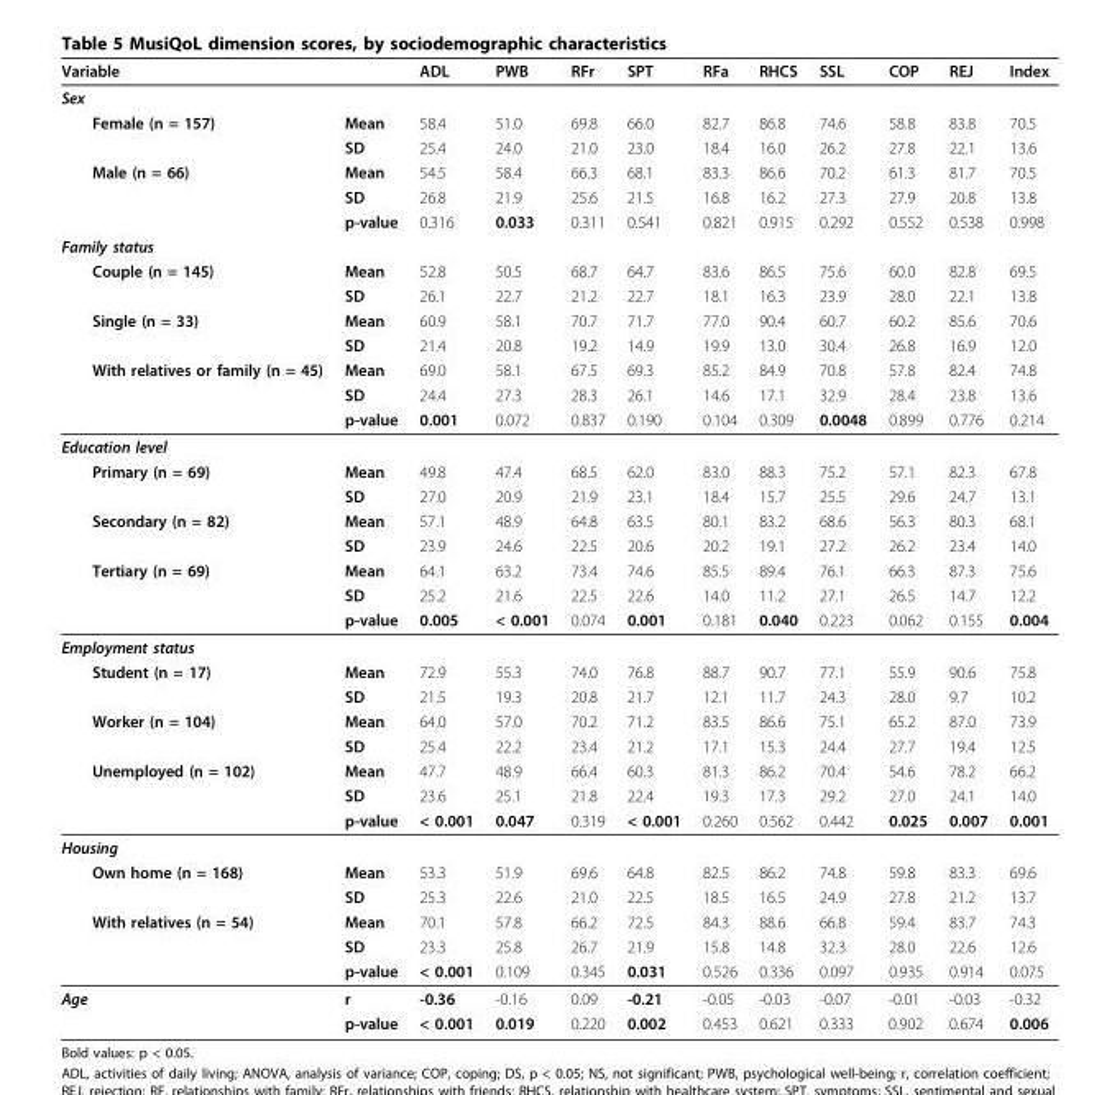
<table><thead><tr><td>Variable</td><td></td><td>ADL</td><td>PWB</td><td>RFr</td><td>SPT</td><td>RFa</td><td>RHCS</td><td>SSL</td><td>COP</td><td>REJ</td><td>Index</td></tr></thead><tbody><tr><td colspan="12">Sex</td></tr><tr><td rowspan="2">Female (n = 157)</td><td>Mean</td><td>58.4</td><td>51.0</td><td>69.8</td><td>66.0</td><td>82.7</td><td>86.8</td><td>74.6</td><td>58.8</td><td>83.8</td><td>70.5</td></tr><tr><td>SD</td><td>25.4</td><td>24.0</td><td>21.0</td><td>23.0</td><td>18.4</td><td>16.0</td><td>26.2</td><td>27.8</td><td>22.1</td><td>13.6</td></tr><tr><td rowspan="3">Male (n = 66)</td><td>Mean</td><td>54.5</td><td>58.4</td><td>66.3</td><td>68.1</td><td>83.3</td><td>86.6</td><td>70.2</td><td>61.3</td><td>81.7</td><td>70.5</td></tr><tr><td>SD</td><td>26.8</td><td>21.9</td><td>25.6</td><td>21.5</td><td>16.8</td><td>16.2</td><td>27.3</td><td>27.9</td><td>20.8</td><td>13.8</td></tr><tr><td>p-value</td><td>0.316</td><td>0.033</td><td>0.311</td><td>0.541</td><td>0.821</td><td>0.915</td><td>0.292</td><td>0.552</td><td>0.538</td><td>0.998</td></tr><tr><td colspan="12">Family status</td></tr><tr><td rowspan="2">Couple (n = 145)</td><td>Mean</td><td>52.8</td><td>50.5</td><td>68.7</td><td>64.7</td><td>83.6</td><td>86.5</td><td>75.6</td><td>60.0</td><td>82.8</td><td>69.5</td></tr><tr><td>SD</td><td>26.1</td><td>22.7</td><td>21.2</td><td>22.7</td><td>18.1</td><td>16.3</td><td>23.9</td><td>28.0</td><td>22.1</td><td>13.8</td></tr><tr><td rowspan="2">Single (n = 33)</td><td>Mean</td><td>60.9</td><td>58.1</td><td>70.7</td><td>71.7</td><td>77.0</td><td>90.4</td><td>60.7</td><td>60.2</td><td>85.6</td><td>70.6</td></tr><tr><td>SD</td><td>21.4</td><td>20.8</td><td>19.2</td><td>14.9</td><td>19.9</td><td>13.0</td><td>30.4</td><td>26.8</td><td>16.9</td><td>12.0</td></tr><tr><td rowspan="3">With relatives or family (n = 45)</td><td>Mean</td><td>69.0</td><td>58.1</td><td>67.5</td><td>69.3</td><td>85.2</td><td>84.9</td><td>70.8</td><td>57.8</td><td>82.4</td><td>74.8</td></tr><tr><td>SD</td><td>24.4</td><td>27.3</td><td>28.3</td><td>26.1</td><td>14.6</td><td>17.1</td><td>32.9</td><td>28.4</td><td>23.8</td><td>13.6</td></tr><tr><td>p-value</td><td>0.001</td><td>0.072</td><td>0.837</td><td>0.190</td><td>0.104</td><td>0.309</td><td>0.0048</td><td>0.899</td><td>0.776</td><td>0.214</td></tr><tr><td colspan="12">Education level</td></tr><tr><td rowspan="2">Primary (n = 69)</td><td>Mean</td><td>49.8</td><td>47.4</td><td>68.5</td><td>62.0</td><td>83.0</td><td>88.3</td><td>75.2</td><td>57.1</td><td>82.3</td><td>67.8</td></tr><tr><td>SD</td><td>27.0</td><td>20.9</td><td>21.9</td><td>23.1</td><td>18.4</td><td>15.7</td><td>25.5</td><td>29.6</td><td>24.7</td><td>13.1</td></tr><tr><td rowspan="2">Secondary (n = 82)</td><td>Mean</td><td>57.1</td><td>48.9</td><td>64.8</td><td>63.5</td><td>80.1</td><td>83.2</td><td>68.6</td><td>56.3</td><td>80.3</td><td>68.1</td></tr><tr><td>SD</td><td>23.9</td><td>24.6</td><td>22.5</td><td>20.6</td><td>20.2</td><td>19.1</td><td>27.2</td><td>26.2</td><td>23.4</td><td>14.0</td></tr><tr><td rowspan="3">Tertiary (n = 69)</td><td>Mean</td><td>64.1</td><td>63.2</td><td>73.4</td><td>74.6</td><td>85.5</td><td>89.4</td><td>76.1</td><td>66.3</td><td>87.3</td><td>75.6</td></tr><tr><td>SD</td><td>25.2</td><td>21.6</td><td>22.5</td><td>22.6</td><td>14.0</td><td>11.2</td><td>27.1</td><td>26.5</td><td>14.7</td><td>12.2</td></tr><tr><td>p-value</td><td>0.005</td><td>&lt; 0.001</td><td>0.074</td><td>0.001</td><td>0.181</td><td>0.040</td><td>0.223</td><td>0.062</td><td>0.155</td><td>0.004</td></tr><tr><td colspan="12">Employment status</td></tr><tr><td rowspan="2">Student (n = 17)</td><td>Mean</td><td>72.9</td><td>55.3</td><td>74.0</td><td>76.8</td><td>88.7</td><td>90.7</td><td>77.1</td><td>55.9</td><td>90.6</td><td>75.8</td></tr><tr><td>SD</td><td>21.5</td><td>19.3</td><td>20.8</td><td>21.7</td><td>12.1</td><td>11.7</td><td>24.3</td><td>28.0</td><td>9.7</td><td>10.2</td></tr><tr><td rowspan="2">Worker (n = 104)</td><td>Mean</td><td>64.0</td><td>57.0</td><td>70.2</td><td>71.2</td><td>83.5</td><td>86.6</td><td>75.1</td><td>65.2</td><td>87.0</td><td>73.9</td></tr><tr><td>SD</td><td>25.4</td><td>22.2</td><td>23.4</td><td>21.2</td><td>17.1</td><td>15.3</td><td>24.4</td><td>27.7</td><td>19.4</td><td>12.5</td></tr><tr><td rowspan="3">Unemployed (n = 102)</td><td>Mean</td><td>47.7</td><td>48.9</td><td>66.4</td><td>60.3</td><td>81.3</td><td>86.2</td><td>70.4</td><td>54.6</td><td>78.2</td><td>66.2</td></tr><tr><td>SD</td><td>23.6</td><td>25.1</td><td>21.8</td><td>22.4</td><td>19.3</td><td>17.3</td><td>29.2</td><td>27.0</td><td>24.1</td><td>14.0</td></tr><tr><td>p-value</td><td>&lt; 0.001</td><td>0.047</td><td>0.319</td><td>&lt; 0.001</td><td>0.260</td><td>0.562</td><td>0.442</td><td>0.025</td><td>0.007</td><td>0.001</td></tr><tr><td colspan="12">Housing</td></tr><tr><td rowspan="2">Own home (n = 168)</td><td>Mean</td><td>53.3</td><td>51.9</td><td>69.6</td><td>64.8</td><td>82.5</td><td>86.2</td><td>74.8</td><td>59.8</td><td>83.3</td><td>69.6</td></tr><tr><td>SD</td><td>25.3</td><td>22.6</td><td>21.0</td><td>22.5</td><td>18.5</td><td>16.5</td><td>24.9</td><td>27.8</td><td>21.2</td><td>13.7</td></tr><tr><td rowspan="3">With relatives (n = 54)</td><td>Mean</td><td>70.1</td><td>57.8</td><td>66.2</td><td>72.5</td><td>84.3</td><td>88.6</td><td>66.8</td><td>59.4</td><td>83.7</td><td>74.3</td></tr><tr><td>SD</td><td>23.3</td><td>25.8</td><td>26.7</td><td>21.9</td><td>15.8</td><td>14.8</td><td>32.3</td><td>28.0</td><td>22.6</td><td>12.6</td></tr><tr><td>p-value</td><td>&lt; 0.001</td><td>0.109</td><td>0.345</td><td>0.031</td><td>0.526</td><td>0.336</td><td>0.097</td><td>0.935</td><td>0.914</td><td>0.075</td></tr><tr><td rowspan="2">Age</td><td>r</td><td>-0.36</td><td>-0.16</td><td>0.09</td><td>-0.21</td><td>-0.05</td><td>-0.03</td><td>-0.07</td><td>-0.01</td><td>-0.03</td><td>-0.32</td></tr><tr><td>p-value</td><td>&lt; 0.001</td><td>0.019</td><td>0.220</td><td>0.002</td><td>0.453</td><td>0.621</td><td>0.333</td><td>0.902</td><td>0.674</td><td>0.006</td></tr></tbody></table>